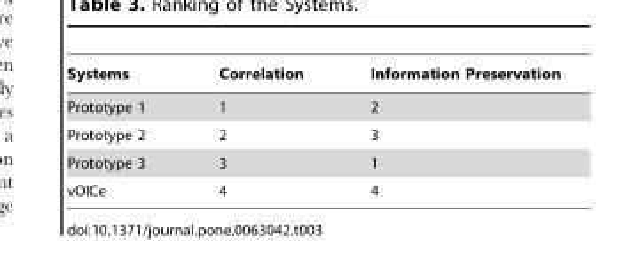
<table><thead><tr><td>Systems</td><td>Correlation</td><td>Information Preservation</td></tr></thead><tbody><tr><td>Prototype 1</td><td>1</td><td>2</td></tr><tr><td>Prototype 2</td><td>2</td><td>3</td></tr><tr><td>Prototype 3</td><td>3</td><td>1</td></tr><tr><td>vOICe</td><td>4</td><td>4</td></tr></tbody></table>